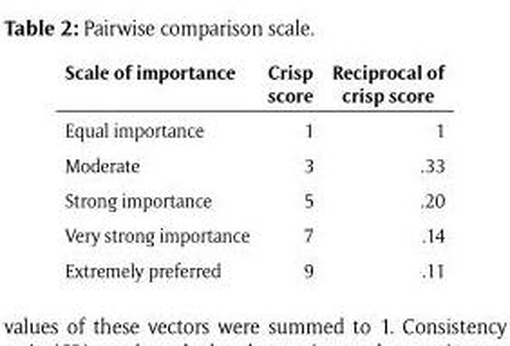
<table><thead><tr><td>Scale of importance</td><td>Crisp score</td><td>Reciprocal of crisp score</td></tr></thead><tbody><tr><td>Equal importance</td><td>1</td><td>1</td></tr><tr><td>Moderate</td><td>3</td><td>.33</td></tr><tr><td>Strong importance</td><td>5</td><td>.20</td></tr><tr><td>Very strong importance</td><td>7</td><td>.14</td></tr><tr><td>Extremely preferred</td><td>9</td><td>.11</td></tr></tbody></table>